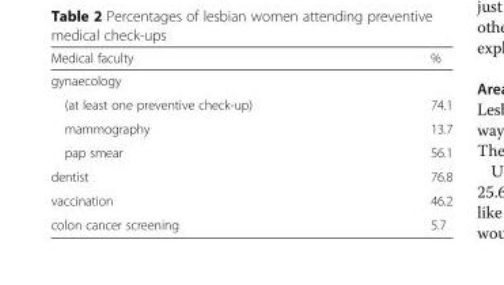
<table><thead><tr><td>Medical faculty</td><td>%</td></tr></thead><tbody><tr><td colspan="2">gynaecology</td></tr><tr><td>(at least one preventive check-up)</td><td>74.1</td></tr><tr><td>mammography</td><td>13.7</td></tr><tr><td>pap smear</td><td>56.1</td></tr><tr><td>dentist</td><td>76.8</td></tr><tr><td>vaccination</td><td>46.2</td></tr><tr><td>colon cancer screening</td><td>5.7</td></tr></tbody></table>